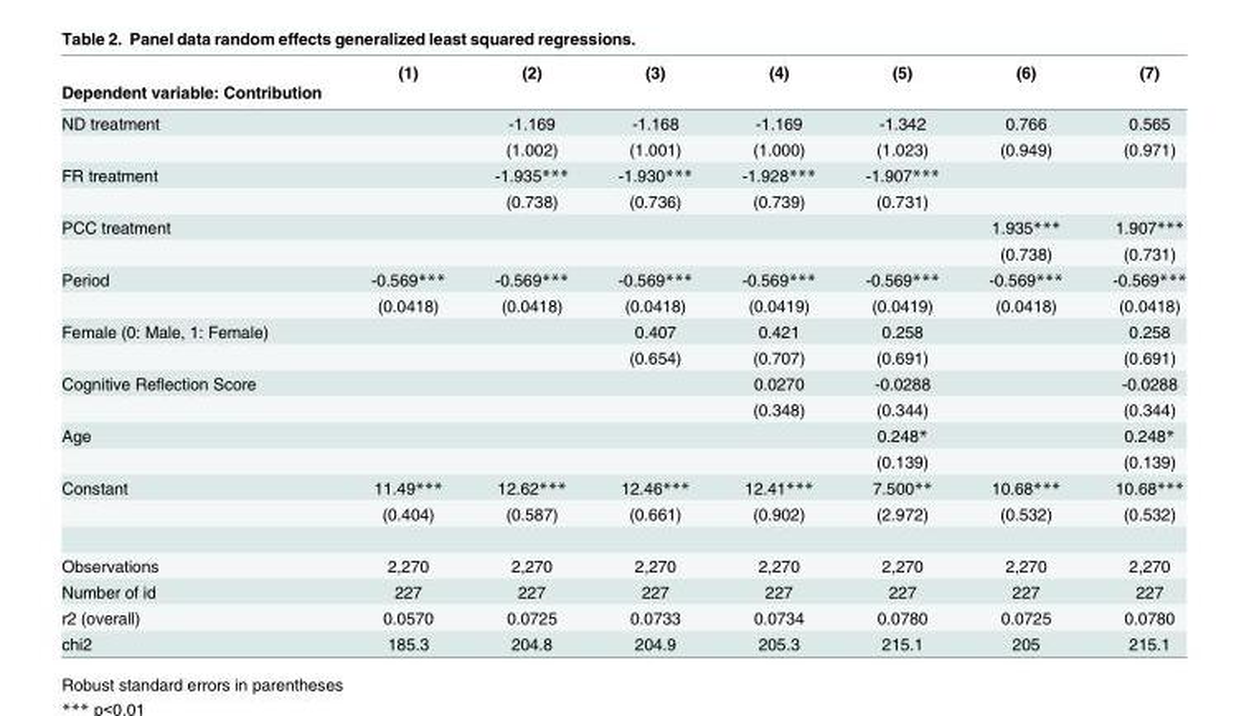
<table><thead><tr><td rowspan="2">Dependent variable: Contribution</td><td rowspan="2">(1)</td><td rowspan="2">(2)</td><td rowspan="2">(3)</td><td rowspan="2">(4)</td><td rowspan="2">(5)</td><td rowspan="2">(6)</td><td rowspan="2">(7)</td></tr><tr></tr></thead><tbody><tr><td rowspan="2">ND treatment</td><td></td><td>-1.169</td><td>-1.168</td><td>-1.169</td><td>-1.342</td><td>0.766</td><td>0.565</td></tr><tr><td></td><td>(1.002)</td><td>(1.001)</td><td>(1.000)</td><td>(1.023)</td><td>(0.949)</td><td>(0.971)</td></tr><tr><td rowspan="2">FR treatment</td><td></td><td>-1.935***</td><td>-1.930***</td><td>-1.928***</td><td>-1.907***</td><td></td><td></td></tr><tr><td></td><td>(0.738)</td><td>(0.736)</td><td>(0.739)</td><td>(0.731)</td><td></td><td></td></tr><tr><td rowspan="2">PCC treatment</td><td></td><td></td><td></td><td></td><td></td><td>1.935***</td><td>1.907***</td></tr><tr><td></td><td></td><td></td><td></td><td></td><td>(0.738)</td><td>(0.731)</td></tr><tr><td rowspan="2">Period</td><td>-0.569***</td><td>-0.569***</td><td>-0.569***</td><td>-0.569***</td><td>-0.569***</td><td>-0.569***</td><td>-0.569***</td></tr><tr><td>(0.0418)</td><td>(0.0418)</td><td>(0.0418)</td><td>(0.0419)</td><td>(0.0419)</td><td>(0.0418)</td><td>(0.0418)</td></tr><tr><td rowspan="2">Female (0: Male, 1: Female)</td><td></td><td></td><td>0.407</td><td>0.421</td><td>0.258</td><td></td><td>0.258</td></tr><tr><td></td><td></td><td>(0.654)</td><td>(0.707)</td><td>(0.691)</td><td></td><td>(0.691)</td></tr><tr><td rowspan="2">Cognitive Reflection Score</td><td></td><td></td><td></td><td>0.0270</td><td>-0.0288</td><td></td><td>-0.0288</td></tr><tr><td></td><td></td><td></td><td>(0.348)</td><td>(0.344)</td><td></td><td>(0.344)</td></tr><tr><td rowspan="2">Age</td><td></td><td></td><td></td><td></td><td>0.248*</td><td></td><td>0.248*</td></tr><tr><td></td><td></td><td></td><td></td><td>(0.139)</td><td></td><td>(0.139)</td></tr><tr><td rowspan="2">Constant</td><td>11.49***</td><td>12.62***</td><td>12.46***</td><td>12.41***</td><td>7.500**</td><td>10.68***</td><td>10.68***</td></tr><tr><td>(0.404)</td><td>(0.587)</td><td>(0.661)</td><td>(0.902)</td><td>(2.972)</td><td>(0.532)</td><td>(0.532)</td></tr><tr><td>Observations</td><td>2,270</td><td>2,270</td><td>2,270</td><td>2,270</td><td>2,270</td><td>2,270</td><td>2,270</td></tr><tr><td>Number of id</td><td>227</td><td>227</td><td>227</td><td>227</td><td>227</td><td>227</td><td>227</td></tr><tr><td>r2 (overall)</td><td>0.0570</td><td>0.0725</td><td>0.0733</td><td>0.0734</td><td>0.0780</td><td>0.0725</td><td>0.0780</td></tr><tr><td>chi2</td><td>185.3</td><td>204.8</td><td>204.9</td><td>205.3</td><td>215.1</td><td>205</td><td>215.1</td></tr></tbody></table>